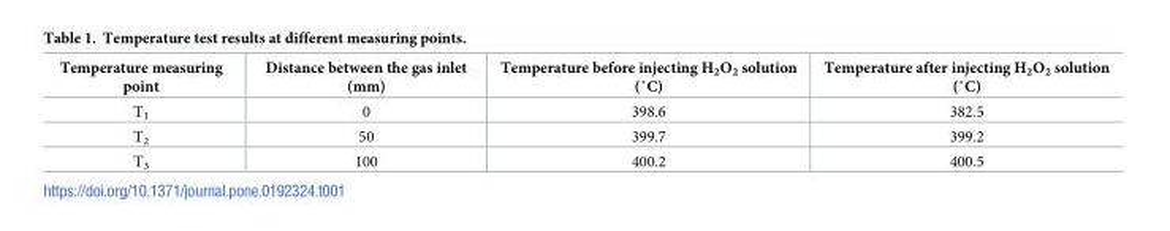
<table><thead><tr><td>Temperature measuring point</td><td>Distance between the gas inlet (mm)</td><td>Temperature before injecting H2O2 solution (˚C)</td><td>Temperature after injecting H2O2 solution (˚C)</td></tr></thead><tbody><tr><td>T<sub>1</sub></td><td>0</td><td>398.6</td><td>382.5</td></tr><tr><td>T<sub>2</sub></td><td>50</td><td>399.7</td><td>399.2</td></tr><tr><td>T<sub>3</sub></td><td>100</td><td>400.2</td><td>400.5</td></tr></tbody></table>